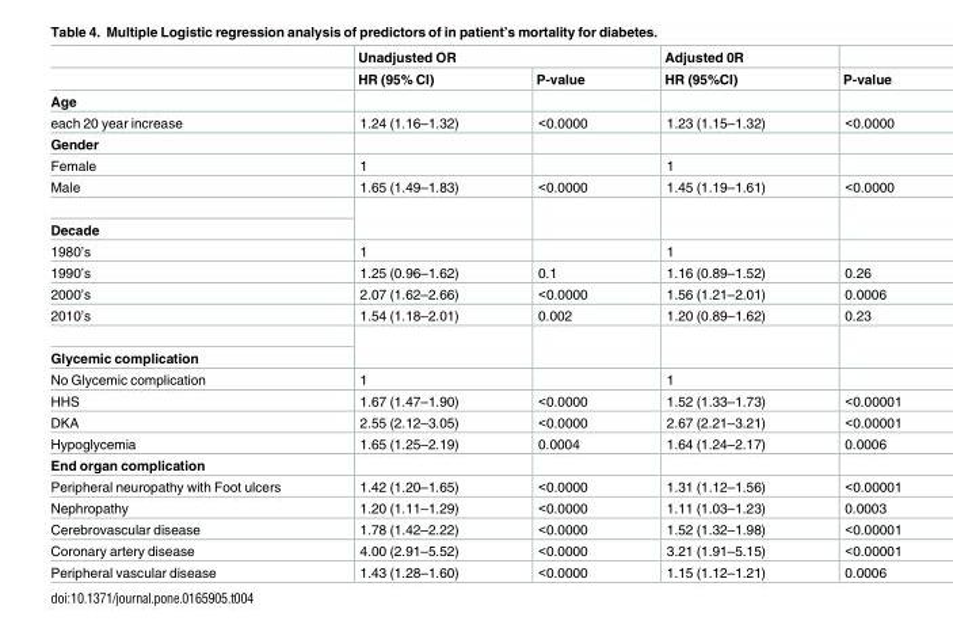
<table><thead><tr><td rowspan="2"></td><td colspan="2">Unadjusted OR</td><td rowspan="2">Adjusted 0R HR (95%CI)</td><td rowspan="2">P-value</td></tr><tr><td>HR (95% CI)</td><td>P-value</td></tr></thead><tbody><tr><td colspan="5">Age</td></tr><tr><td>each 20 year increase</td><td>1.24 (1.16–1.32)</td><td>&lt;0.0000</td><td>1.23 (1.15–1.32)</td><td>&lt;0.0000</td></tr><tr><td colspan="5">Gender</td></tr><tr><td>Female</td><td>1</td><td></td><td>1</td><td></td></tr><tr><td>Male</td><td>1.65 (1.49–1.83)</td><td>&lt;0.0000</td><td>1.45 (1.19–1.61)</td><td>&lt;0.0000</td></tr><tr><td colspan="5">Decade</td></tr><tr><td>1980’s</td><td>1</td><td></td><td>1</td><td></td></tr><tr><td>1990’s</td><td>1.25 (0.96–1.62)</td><td>0.1</td><td>1.16 (0.89–1.52)</td><td>0.26</td></tr><tr><td>2000’s</td><td>2.07 (1.62–2.66)</td><td>&lt;0.0000</td><td>1.56 (1.21–2.01)</td><td>0.0006</td></tr><tr><td>2010’s</td><td>1.54 (1.18–2.01)</td><td>0.002</td><td>1.20 (0.89–1.62)</td><td>0.23</td></tr><tr><td colspan="5">Glycemic complication</td></tr><tr><td>No Glycemic complication</td><td>1</td><td></td><td>1</td><td></td></tr><tr><td>HHS</td><td>1.67 (1.47–1.90)</td><td>&lt;0.0000</td><td>1.52 (1.33–1.73)</td><td>&lt;0.00001</td></tr><tr><td>DKA</td><td>2.55 (2.12–3.05)</td><td>&lt;0.0000</td><td>2.67 (2.21–3.21)</td><td>&lt;0.00001</td></tr><tr><td>Hypoglycemia</td><td>1.65 (1.25–2.19)</td><td>0.0004</td><td>1.64 (1.24–2.17)</td><td>0.0006</td></tr><tr><td colspan="5">End organ complication</td></tr><tr><td>Peripheral neuropathy with Foot ulcers</td><td>1.42 (1.20–1.65)</td><td>&lt;0.0000</td><td>1.31 (1.12–1.56)</td><td>&lt;0.00001</td></tr><tr><td>Nephropathy</td><td>1.20 (1.11–1.29)</td><td>&lt;0.0000</td><td>1.11 (1.03–1.23)</td><td>0.0003</td></tr><tr><td>Cerebrovascular disease</td><td>1.78 (1.42–2.22)</td><td>&lt;0.0000</td><td>1.52 (1.32–1.98)</td><td>&lt;0.00001</td></tr><tr><td>Coronary artery disease</td><td>4.00 (2.91–5.52)</td><td>&lt;0.0000</td><td>3.21 (1.91–5.15)</td><td>&lt;0.00001</td></tr><tr><td>Peripheral vascular disease</td><td>1.43 (1.28–1.60)</td><td>&lt;0.0000</td><td>1.15 (1.12–1.21)</td><td>0.0006</td></tr></tbody></table>